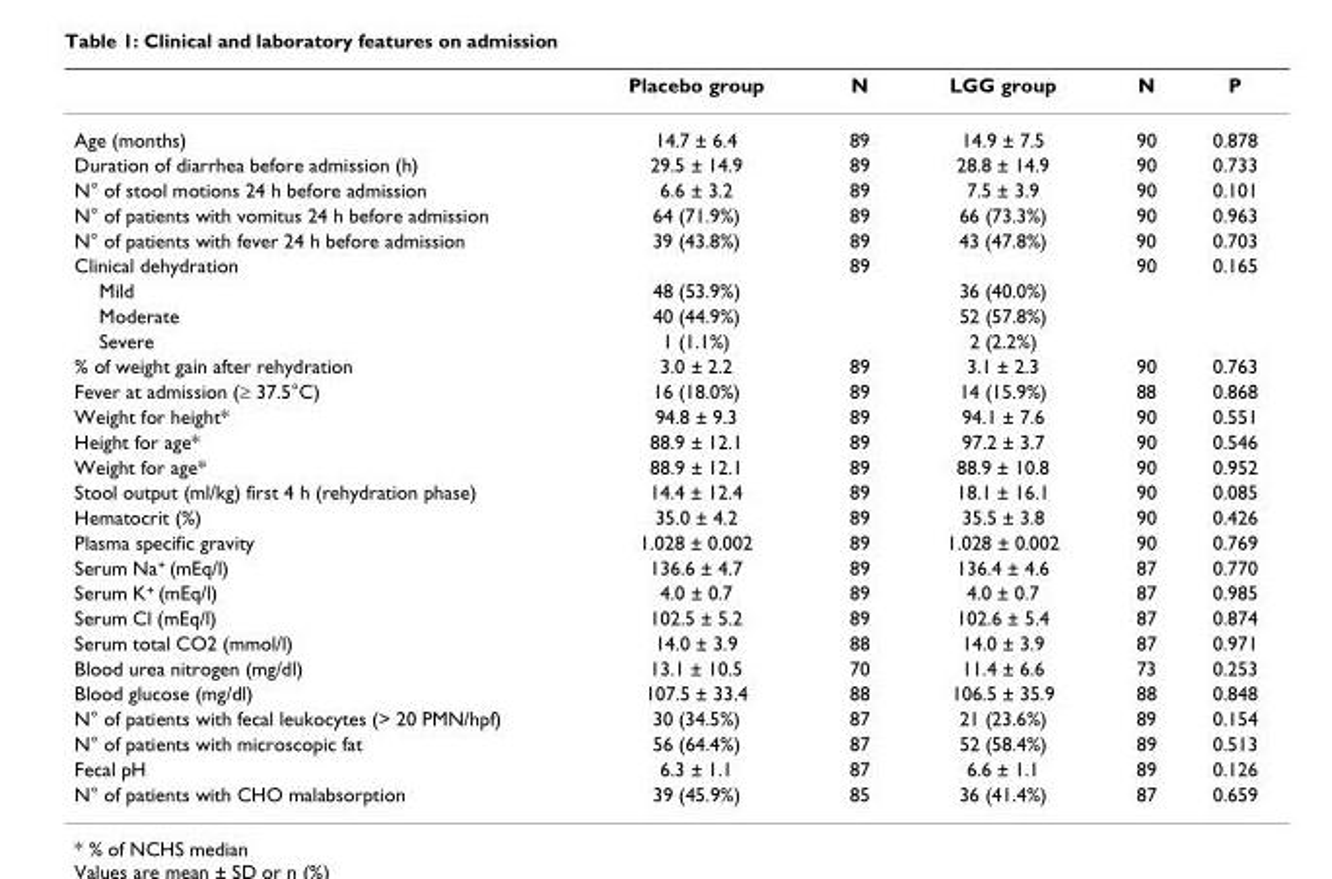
<table><thead><tr><td></td><td>Placebo group</td><td>N</td><td>LGG group</td><td>N</td><td>P</td></tr></thead><tbody><tr><td>Age (months)</td><td>14.7 ± 6.4</td><td>89</td><td>14.9 ± 7.5</td><td>90</td><td>0.878</td></tr><tr><td>Duration of diarrhea before admission (h)</td><td>29.5 ± 14.9</td><td>89</td><td>28.8 ± 14.9</td><td>90</td><td>0.733</td></tr><tr><td>N° of stool motions 24 h before admission</td><td>6.6 ± 3.2</td><td>89</td><td>7.5 ± 3.9</td><td>90</td><td>0.101</td></tr><tr><td>N° of patients with vomitus 24 h before admission</td><td>64 (71.9%)</td><td>89</td><td>66 (73.3%)</td><td>90</td><td>0.963</td></tr><tr><td>N° of patients with fever 24 h before admission</td><td>39 (43.8%)</td><td>89</td><td>43 (47.8%)</td><td>90</td><td>0.703</td></tr><tr><td>Clinical dehydration</td><td></td><td>89</td><td></td><td>90</td><td>0.165</td></tr><tr><td>Mild</td><td>48 (53.9%)</td><td></td><td>36 (40.0%)</td><td></td><td></td></tr><tr><td>Moderate</td><td>40 (44.9%)</td><td></td><td>52 (57.8%)</td><td></td><td></td></tr><tr><td>Severe</td><td>1 (1.1%)</td><td></td><td>2 (2.2%)</td><td></td><td></td></tr><tr><td>% of weight gain after rehydration</td><td>3.0 ± 2.2</td><td>89</td><td>3.1 ± 2.3</td><td>90</td><td>0.763</td></tr><tr><td>Fever at admission (≥ 37.5°C)</td><td>16 (18.0%)</td><td>89</td><td>14 (15.9%)</td><td>88</td><td>0.868</td></tr><tr><td>Weight for height*</td><td>94.8 ± 9.3</td><td>89</td><td>94.1 ± 7.6</td><td>90</td><td>0.551</td></tr><tr><td>Height for age*</td><td>88.9 ± 12.1</td><td>89</td><td>97.2 ± 3.7</td><td>90</td><td>0.546</td></tr><tr><td>Weight for age*</td><td>88.9 ± 12.1</td><td>89</td><td>88.9 ± 10.8</td><td>90</td><td>0.952</td></tr><tr><td>Stool output (ml/kg) first 4 h (rehydration phase)</td><td>14.4 ± 12.4</td><td>89</td><td>18.1 ± 16.1</td><td>90</td><td>0.085</td></tr><tr><td>Hematocrit (%)</td><td>35.0 ± 4.2</td><td>89</td><td>35.5 ± 3.8</td><td>90</td><td>0.426</td></tr><tr><td>Plasma specific gravity</td><td>1.028 ± 0.002</td><td>89</td><td>1.028 ± 0.002</td><td>90</td><td>0.769</td></tr><tr><td>Serum Na<sup>+</sup> (mEq/l)</td><td>136.6 ± 4.7</td><td>89</td><td>136.4 ± 4.6</td><td>87</td><td>0.770</td></tr><tr><td>Serum K<sup>+</sup> (mEq/l)</td><td>4.0 ± 0.7</td><td>89</td><td>4.0 ± 0.7</td><td>87</td><td>0.985</td></tr><tr><td>Serum Cl (mEq/l)</td><td>102.5 ± 5.2</td><td>89</td><td>102.6 ± 5.4</td><td>87</td><td>0.874</td></tr><tr><td>Serum total CO2 (mmol/l)</td><td>14.0 ± 3.9</td><td>88</td><td>14.0 ± 3.9</td><td>87</td><td>0.971</td></tr><tr><td>Blood urea nitrogen (mg/dl)</td><td>13.1 ± 10.5</td><td>70</td><td>11.4 ± 6.6</td><td>73</td><td>0.253</td></tr><tr><td>Blood glucose (mg/dl)</td><td>107.5 ± 33.4</td><td>88</td><td>106.5 ± 35.9</td><td>88</td><td>0.848</td></tr><tr><td>N° of patients with fecal leukocytes (&gt; 20 PMN/hpf)</td><td>30 (34.5%)</td><td>87</td><td>21 (23.6%)</td><td>89</td><td>0.154</td></tr><tr><td>N° of patients with microscopic fat</td><td>56 (64.4%)</td><td>87</td><td>52 (58.4%)</td><td>89</td><td>0.513</td></tr><tr><td>Fecal pH</td><td>6.3 ± 1.1</td><td>87</td><td>6.6 ± 1.1</td><td>89</td><td>0.126</td></tr><tr><td>N° of patients with CHO malabsorption</td><td>39 (45.9%)</td><td>85</td><td>36 (41.4%)</td><td>87</td><td>0.659</td></tr></tbody></table>